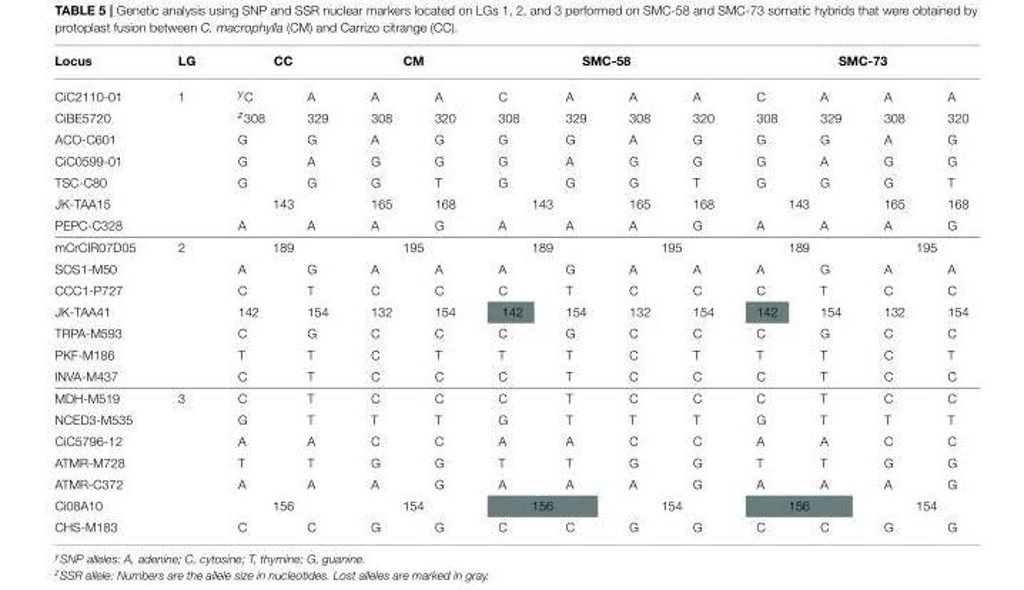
<table><thead><tr><td rowspan="2">Locus CiC2110-01</td><td rowspan="2">LG 1</td><td colspan="2">CC</td><td colspan="2">CM</td><td colspan="4">SMC-58</td><td colspan="4">SMC-73</td></tr><tr><td>yC</td><td>A</td><td>A</td><td>A</td><td>C</td><td>A</td><td>A</td><td>A</td><td>C</td><td>A</td><td>A</td><td>A</td></tr></thead><tbody><tr><td>CiBE5720</td><td></td><td>z308</td><td>329</td><td>308</td><td>320</td><td>308</td><td>329</td><td>308</td><td>320</td><td>308</td><td>329</td><td>308</td><td>320</td></tr><tr><td>ACO-C601</td><td></td><td>G</td><td>G</td><td>A</td><td>G</td><td>G</td><td>G</td><td>A</td><td>G</td><td>G</td><td>G</td><td>A</td><td>G</td></tr><tr><td>CiC0599-01</td><td></td><td>G</td><td>A</td><td>G</td><td>G</td><td>G</td><td>A</td><td>G</td><td>G</td><td>G</td><td>A</td><td>G</td><td>G</td></tr><tr><td>TSC-C80</td><td></td><td>G</td><td>G</td><td>G</td><td>T</td><td>G</td><td>G</td><td>G</td><td>T</td><td>G</td><td>G</td><td>G</td><td>T</td></tr><tr><td>JK-TAA15</td><td></td><td colspan="2">143</td><td>165</td><td>168</td><td colspan="2">143</td><td>165</td><td>168</td><td colspan="2">143</td><td>165</td><td>168</td></tr><tr><td>PEPC-C328</td><td></td><td>A</td><td>A</td><td>A</td><td>G</td><td>A</td><td>A</td><td>A</td><td>G</td><td>A</td><td>A</td><td>A</td><td>G</td></tr><tr><td>mCrCIR07D05</td><td>2</td><td colspan="2">189</td><td colspan="2">195</td><td colspan="2">189</td><td colspan="2">195</td><td colspan="2">189</td><td colspan="2">195</td></tr><tr><td>SOS1-M50</td><td></td><td>A</td><td>G</td><td>A</td><td>A</td><td>A</td><td>G</td><td>A</td><td>A</td><td>A</td><td>G</td><td>A</td><td>A</td></tr><tr><td>CCC1-P727</td><td></td><td>C</td><td>T</td><td>C</td><td>C</td><td>C</td><td>T</td><td>C</td><td>C</td><td>C</td><td>T</td><td>C</td><td>C</td></tr><tr><td>JK-TAA41</td><td></td><td>142</td><td>154</td><td>132</td><td>154</td><td>142</td><td>154</td><td>132</td><td>154</td><td>142</td><td>154</td><td>132</td><td>154</td></tr><tr><td>TRPA-M593</td><td></td><td>C</td><td>G</td><td>C</td><td>C</td><td>C</td><td>G</td><td>C</td><td>C</td><td>C</td><td>G</td><td>C</td><td>C</td></tr><tr><td>PKF-M186</td><td></td><td>T</td><td>T</td><td>C</td><td>T</td><td>T</td><td>T</td><td>C</td><td>T</td><td>T</td><td>T</td><td>C</td><td>T</td></tr><tr><td>INVA-M437</td><td></td><td>C</td><td>T</td><td>C</td><td>C</td><td>C</td><td>T</td><td>C</td><td>C</td><td>C</td><td>T</td><td>C</td><td>C</td></tr><tr><td>MDH-M519</td><td>3</td><td>C</td><td>T</td><td>C</td><td>C</td><td>C</td><td>T</td><td>C</td><td>C</td><td>C</td><td>T</td><td>C</td><td>C</td></tr><tr><td>NCED3-M535</td><td></td><td>G</td><td>T</td><td>T</td><td>T</td><td>G</td><td>T</td><td>T</td><td>T</td><td>G</td><td>T</td><td>T</td><td>T</td></tr><tr><td>CiC5796-12</td><td></td><td>A</td><td>A</td><td>C</td><td>C</td><td>A</td><td>A</td><td>C</td><td>C</td><td>A</td><td>A</td><td>C</td><td>C</td></tr><tr><td>ATMR-M728</td><td></td><td>T</td><td>T</td><td>G</td><td>G</td><td>T</td><td>T</td><td>G</td><td>G</td><td>T</td><td>T</td><td>G</td><td>G</td></tr><tr><td>ATMR-C372</td><td></td><td>A</td><td>A</td><td>A</td><td>G</td><td>A</td><td>A</td><td>A</td><td>G</td><td>A</td><td>A</td><td>A</td><td>G</td></tr><tr><td>Ci08A10</td><td></td><td colspan="2">156</td><td colspan="2">154</td><td colspan="2">156</td><td colspan="2">154</td><td colspan="2">156</td><td colspan="2">154</td></tr><tr><td>CHS-M183</td><td></td><td>C</td><td>C</td><td>G</td><td>G</td><td>C</td><td>C</td><td>G</td><td>G</td><td>C</td><td>C</td><td>G</td><td>G</td></tr></tbody></table>